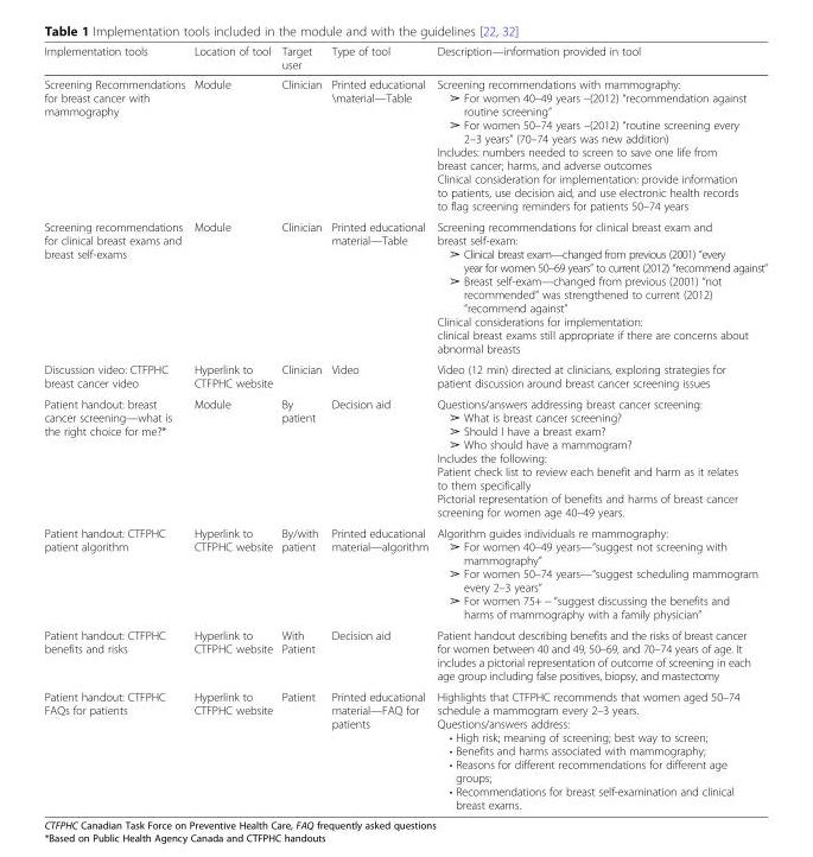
<table><thead><tr><td>Implementation tools</td><td>Location of tool</td><td>Target user</td><td>Type of tool</td><td>Description—information provided in tool</td></tr></thead><tbody><tr><td>Screening Recommendations for breast cancer with mammography</td><td>Module</td><td>Clinician</td><td>Printed educational \material—Table</td><td>Screening recommendations with mammography: ➢ For women 40–49 years –(2012) “recommendation against routine screening” ➢ For women 50–74 years –(2012) “routine screening every 2–3 years” (70–74 years was new addition) Includes: numbers needed to screen to save one life from breast cancer; harms, and adverse outcomes Clinical consideration for implementation: provide information to patients, use decision aid, and use electronic health records to flag screening reminders for patients 50–74 years</td></tr><tr><td>Screening recommendations for clinical breast exams and breast self-exams</td><td>Module</td><td>Clinician</td><td>Printed educational material—Table</td><td>Screening recommendations for clinical breast exam and breast self-exam: ➢ Clinical breast exam—changed from previous (2001) “every year for women 50–69 years” to current (2012) “recommend against” ➢ Breast self-exam—changed from previous (2001) “not recommended” was strengthened to current (2012) “recommend against” Clinical considerations for implementation: clinical breast exams still appropriate if there are concerns about abnormal breasts</td></tr><tr><td>Discussion video: CTFPHC breast cancer video</td><td>Hyperlink to CTFPHC website</td><td>Clinician</td><td>Video</td><td>Video (12 min) directed at clinicians, exploring strategies for patient discussion around breast cancer screening issues</td></tr><tr><td>Patient handout: breast cancer screening—what is the right choice for me?*</td><td>Module</td><td>By patient</td><td>Decision aid</td><td>Questions/answers addressing breast cancer screening: ➢ What is breast cancer screening? ➢ Should I have a breast exam? ➢ Who should have a mammogram? Includes the following: Patient check list to review each benefit and harm as it relates to them specifically Pictorial representation of benefits and harms of breast cancer screening for women age 40–49 years.</td></tr><tr><td>Patient handout: CTFPHC patient algorithm</td><td>Hyperlink to CTFPHC website</td><td>By/with patient</td><td>Printed educational material—algorithm</td><td>Algorithm guides individuals re mammography: ➢ For women 40–49 years—“suggest not screening with mammography” ➢ For women 50–74 years—“suggest scheduling mammogram every 2–3 years” ➢ For women 75+ − “suggest discussing the benefits and harms of mammography with a family physician”</td></tr><tr><td>Patient handout: CTFPHC benefits and risks</td><td>Hyperlink to CTFPHC website</td><td>With Patient</td><td>Decision aid</td><td>Patient handout describing benefits and the risks of breast cancer for women between 40 and 49, 50–69, and 70–74 years of age. It includes a pictorial representation of outcome of screening in each age group including false positives, biopsy, and mastectomy</td></tr><tr><td>Patient handout: CTFPHC FAQs for patients</td><td>Hyperlink to CTFPHC website</td><td>Patient</td><td>Printed educational material—FAQ for patients</td><td>Highlights that CTFPHC recommends that women aged 50–74 schedule a mammogram every 2–3 years. Questions/answers address: • High risk; meaning of screening; best way to screen; • Benefits and harms associated with mammography; • Reasons for different recommendations for different age groups; • Recommendations for breast self-examination and clinical breast exams.</td></tr></tbody></table>